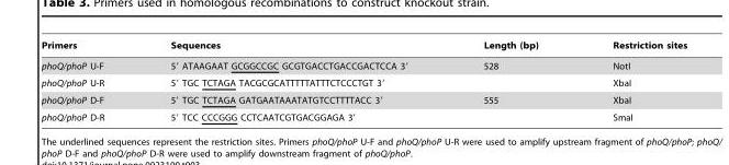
<table><thead><tr><td>Primers</td><td>Sequences</td><td>Length (bp)</td><td>Restriction sites</td></tr></thead><tbody><tr><td>phoQ/phoP U-F</td><td>5′ ATAAGAAT GCGGCCGC GCGTGACCTGACCGACTCCA 3′</td><td>528</td><td>NotI</td></tr><tr><td>phoQ/phoP U-R</td><td>5′ TGC TCTAGA TACGCGCATTTTTATTTCTCCCTGT 3′</td><td></td><td>XbaI</td></tr><tr><td>phoQ/phoP D-F</td><td>5′ TGC TCTAGA GATGAATAAATATGTCCTTTTACC 3′</td><td>555</td><td>XbaI</td></tr><tr><td>phoQ/phoP D-R</td><td>5′ TCC CCCGGG CCTCAATCGTGACGGAGA 3′</td><td></td><td>SmaI</td></tr></tbody></table>